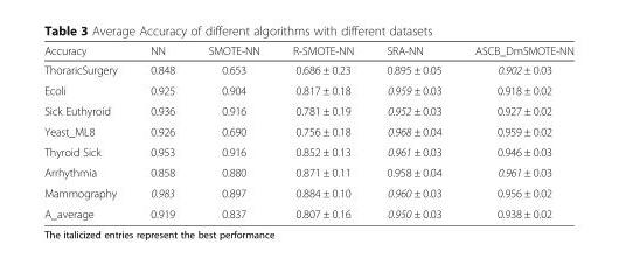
<table><thead><tr><td>Accuracy</td><td>NN</td><td>SMOTE-NN</td><td>R-SMOTE-NN</td><td>SRA-NN</td><td>ASCB_DmSMOTE-NN</td></tr></thead><tbody><tr><td>ThoraricSurgery</td><td>0.848</td><td>0.653</td><td>0.686 ± 0.23</td><td>0.895 ± 0.05</td><td>0.902 ± 0.03</td></tr><tr><td>Ecoli</td><td>0.925</td><td>0.904</td><td>0.817 ± 0.18</td><td>0.959 ± 0.03</td><td>0.918 ± 0.02</td></tr><tr><td>Sick Euthyroid</td><td>0.936</td><td>0.916</td><td>0.781 ± 0.19</td><td>0.952 ± 0.03</td><td>0.927 ± 0.02</td></tr><tr><td>Yeast_ML8</td><td>0.926</td><td>0.690</td><td>0.756 ± 0.18</td><td>0.968 ± 0.04</td><td>0.959 ± 0.02</td></tr><tr><td>Thyroid Sick</td><td>0.953</td><td>0.916</td><td>0.852 ± 0.13</td><td>0.961 ± 0.03</td><td>0.946 ± 0.03</td></tr><tr><td>Arrhythmia</td><td>0.858</td><td>0.880</td><td>0.871 ± 0.11</td><td>0.958 ± 0.04</td><td>0.961 ± 0.03</td></tr><tr><td>Mammography</td><td>0.983</td><td>0.897</td><td>0.884 ± 0.10</td><td>0.960 ± 0.03</td><td>0.956 ± 0.02</td></tr><tr><td>A_average</td><td>0.919</td><td>0.837</td><td>0.807 ± 0.16</td><td>0.950 ± 0.03</td><td>0.938 ± 0.02</td></tr></tbody></table>